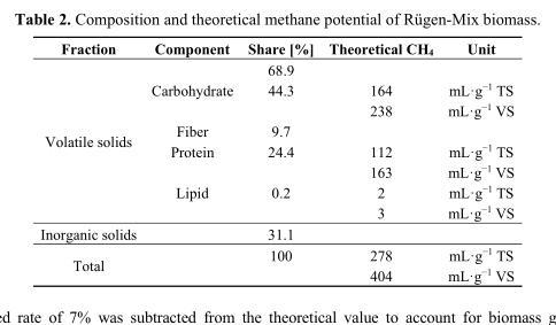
<table><thead><tr><td>Fraction</td><td>Component</td><td>Share [%]</td><td>Theoretical CH<sub>4</sub></td><td>Unit</td></tr></thead><tbody><tr><td rowspan="8">Volatile solids</td><td></td><td>68.9</td><td></td><td></td></tr><tr><td>Carbohydrate</td><td>44.3</td><td>164</td><td>mL·g<sup>−1</sup> TS</td></tr><tr><td></td><td></td><td>238</td><td>mL·g<sup>−1</sup> VS</td></tr><tr><td>Fiber</td><td>9.7</td><td></td><td></td></tr><tr><td>Protein</td><td>24.4</td><td>112</td><td>mL·g<sup>−1</sup> TS</td></tr><tr><td></td><td></td><td>163</td><td>mL·g<sup>−1</sup> VS</td></tr><tr><td>Lipid</td><td>0.2</td><td>2</td><td>mL·g<sup>−1</sup> TS</td></tr><tr><td></td><td></td><td>3</td><td>mL·g<sup>−1</sup> VS</td></tr><tr><td>Inorganic solids</td><td></td><td>31.1</td><td></td><td></td></tr><tr><td rowspan="2">Total</td><td></td><td>100</td><td>278</td><td>mL·g<sup>−1</sup> TS</td></tr><tr><td></td><td></td><td>404</td><td>mL·g<sup>−1</sup> VS</td></tr></tbody></table>